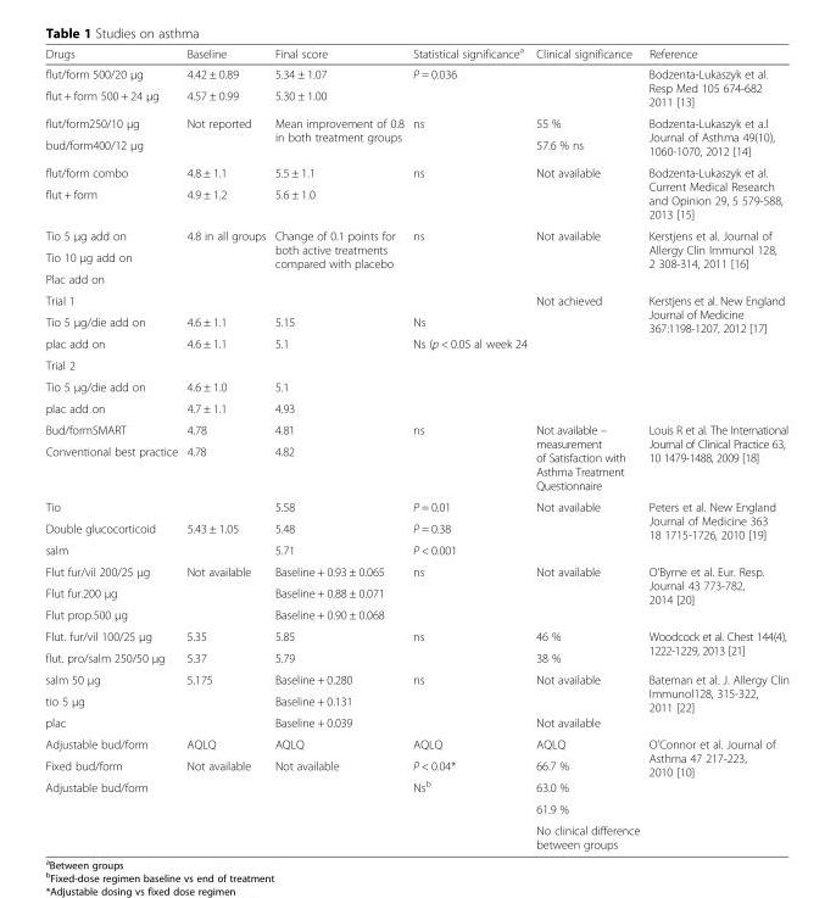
<table><thead><tr><td>Drugs</td><td>Baseline</td><td>Final score</td><td>Statistical significance<sup>a</sup></td><td>Clinical significance</td><td>Reference</td></tr></thead><tbody><tr><td>flut/form 500/20 μg</td><td>4.42 ± 0.89</td><td>5.34 ± 1.07</td><td rowspan="2">P = 0.036</td><td rowspan="2"></td><td rowspan="2">Bodzenta-Lukaszyk et al. Resp Med 105 674-682 2011 [13]</td></tr><tr><td>flut + form 500 + 24 μg</td><td>4.57 ± 0.99</td><td>5.30 ± 1.00</td></tr><tr><td>flut/form250/10 μg</td><td rowspan="2">Not reported</td><td rowspan="2">Mean improvement of 0.8 in both treatment groups</td><td rowspan="2">ns</td><td>55 %</td><td rowspan="2">Bodzenta-Lukaszyk et a.l Journal of Asthma 49(10), 1060-1070, 2012 [14]</td></tr><tr><td>bud/form400/12 μg</td><td>57.6 % ns</td></tr><tr><td>flut/form combo</td><td>4.8 ± 1.1</td><td>5.5 ± 1.1</td><td rowspan="2">ns</td><td rowspan="2">Not available</td><td rowspan="2">Bodzenta-Lukaszyk et al. Current Medical Research and Opinion 29, 5 579-588, 2013 [15]</td></tr><tr><td>flut + form</td><td>4.9 ± 1.2</td><td>5.6 ± 1.0</td></tr><tr><td>Tio 5 μg add on</td><td rowspan="3">4.8 in all groups</td><td rowspan="3">Change of 0.1 points for both active treatments compared with placebo</td><td rowspan="3">ns</td><td rowspan="3">Not available</td><td rowspan="3">Kerstjens et al. Journal of Allergy Clin Immunol 128, 2 308-314, 2011 [16]</td></tr><tr><td>Tio 10 μg add on</td></tr><tr><td>Plac add on</td></tr><tr><td colspan="4">Trial 1</td><td rowspan="6">Not achieved</td><td rowspan="6">Kerstjens et al. New England Journal of Medicine 367:1198-1207, 2012 [17]</td></tr><tr><td>Tio 5 μg/die add on</td><td>4.6 ± 1.1</td><td>5.15</td><td>Ns</td></tr><tr><td>plac add on</td><td>4.6 ± 1.1</td><td>5.1</td><td rowspan="4">Ns (p &lt; 0.05 al week 24</td></tr><tr><td colspan="3">Trial 2</td></tr><tr><td>Tio 5 μg/die add on</td><td>4.6 ± 1.0</td><td>5.1</td></tr><tr><td>plac add on</td><td>4.7 ± 1.1</td><td>4.93</td></tr><tr><td>Bud/formSMART</td><td>4.78</td><td>4.81</td><td rowspan="2">ns</td><td rowspan="2">Not available – measurement of Satisfaction with Asthma Treatment Questionnaire</td><td rowspan="2">Louis R et al. The International Journal of Clinical Practice 63, 10 1479-1488, 2009 [18]</td></tr><tr><td>Conventional best practice</td><td>4.78</td><td>4.82</td></tr><tr><td>Tio</td><td></td><td>5.58</td><td>P = 0.01</td><td rowspan="3">Not available</td><td rowspan="3">Peters et al. New England Journal of Medicine 363 18 1715-1726, 2010 [19]</td></tr><tr><td>Double glucocorticoid</td><td>5.43 ± 1.05</td><td>5.48</td><td>P = 0.38</td></tr><tr><td>salm</td><td></td><td>5.71</td><td>P &lt; 0.001</td></tr><tr><td>Flut fur/vil 200/25 μg</td><td>Not available</td><td>Baseline + 0.93 ± 0.065</td><td rowspan="3">ns</td><td rowspan="3">Not available</td><td rowspan="3">O’Byrne et al. Eur. Resp. Journal 43 773-782, 2014 [20]</td></tr><tr><td>Flut fur.200 μg</td><td></td><td>Baseline + 0.88 ± 0.071</td></tr><tr><td>Flut prop.500 μg</td><td></td><td>Baseline + 0.90 ± 0.068</td></tr><tr><td>Flut. fur/vil 100/25 μg</td><td>5.35</td><td>5.85</td><td>ns</td><td>46 %</td><td rowspan="2">Woodcock et al. Chest 144(4), 1222-1229, 2013 [21]</td></tr><tr><td>flut. pro/salm 250/50 μg</td><td>5.37</td><td>5.79</td><td></td><td>38 %</td></tr><tr><td>salm 50 μg</td><td>5.175</td><td>Baseline + 0.280</td><td rowspan="2">ns</td><td rowspan="2">Not available</td><td rowspan="3">Bateman et al. J. Allergy Clin Immunol128, 315-322, 2011 [22]</td></tr><tr><td>tio 5 μg</td><td></td><td>Baseline + 0.131</td></tr><tr><td>plac</td><td></td><td>Baseline + 0.039</td><td></td><td>Not available</td></tr><tr><td>Adjustable bud/form</td><td>AQLQ</td><td>AQLQ</td><td>AQLQ</td><td>AQLQ</td><td rowspan="5">O’Connor et al. Journal of Asthma 47 217-223, 2010 [10]</td></tr><tr><td>Fixed bud/form</td><td>Not available</td><td>Not available</td><td>P &lt; 0.04*</td><td>66.7 %</td></tr><tr><td rowspan="3">Adjustable bud/form</td><td></td><td></td><td>Ns<sup>b</sup></td><td>63.0 %</td></tr><tr><td></td><td></td><td></td><td>61.9 %</td></tr><tr><td></td><td></td><td></td><td>No clinical difference between groups</td></tr></tbody></table>